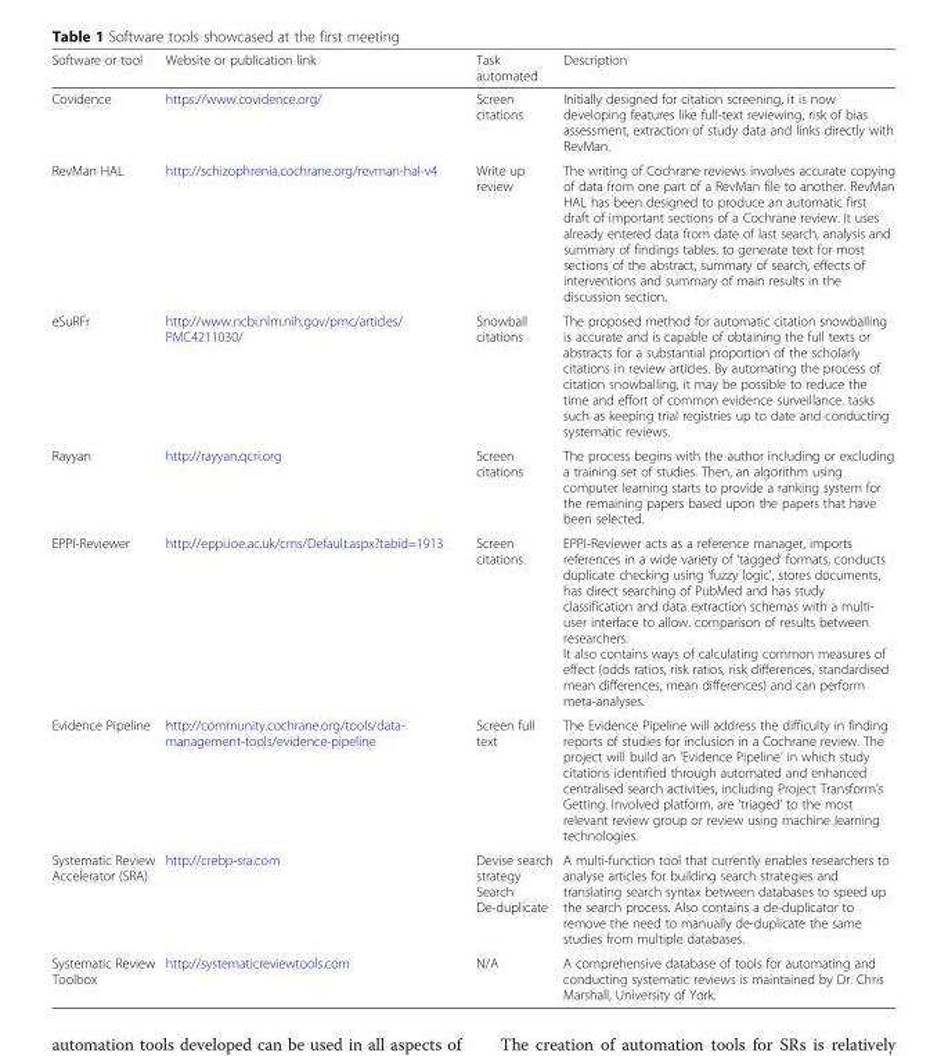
<table><thead><tr><td>Software or tool</td><td>Website or publication link</td><td>Task automated</td><td>Description</td></tr></thead><tbody><tr><td>Covidence</td><td>https://www.covidence.org/</td><td>Screen citations</td><td>Initially designed for citation screening, it is now developing features like full-text reviewing, risk of bias assessment, extraction of study data and links directly with RevMan.</td></tr><tr><td>RevMan HAL</td><td>http://schizophrenia.cochrane.org/revman-hal-v4</td><td>Write up review</td><td>The writing of Cochrane reviews involves accurate copying of data from one part of a RevMan file to another. RevMan HAL has been designed to produce an automatic first draft of important sections of a Cochrane review. It uses already entered data from date of last search, analysis and summary of findings tables. to generate text for most sections of the abstract, summary of search, effects of interventions and summary of main results in the discussion section.</td></tr><tr><td>eSuRFr</td><td>http://www.ncbi.nlm.nih.gov/pmc/articles/ PMC4211030/</td><td>Snowball citations</td><td>The proposed method for automatic citation snowballing is accurate and is capable of obtaining the full texts or abstracts for a substantial proportion of the scholarly citations in review articles. By automating the process of citation snowballing, it may be possible to reduce the time and effort of common evidence surveillance. tasks such as keeping trial registries up to date and conducting systematic reviews.</td></tr><tr><td>Rayyan</td><td>http://rayyan.qcri.org</td><td>Screen citations</td><td>The process begins with the author including or excluding a training set of studies. Then, an algorithm using computer learning starts to provide a ranking system for the remaining papers based upon the papers that have been selected.</td></tr><tr><td>EPPI-Reviewer</td><td>http://eppi.ioe.ac.uk/cms/Default.aspx?tabid=1913</td><td>Screen citations</td><td>EPPI-Reviewer acts as a reference manager, imports references in a wide variety of ‘tagged’ formats, conducts duplicate checking using ‘fuzzy logic’, stores documents, has direct searching of PubMed and has study classification and data extraction schemas with a multi- user interface to allow. comparison of results between researchers. It also contains ways of calculating common measures of effect (odds ratios, risk ratios, risk differences, standardised mean differences, mean differences) and can perform meta-analyses.</td></tr><tr><td>Evidence Pipeline</td><td>http://community.cochrane.org/tools/data- management-tools/evidence-pipeline</td><td>Screen full text</td><td>The Evidence Pipeline will address the difficulty in finding reports of studies for inclusion in a Cochrane review. The project will build an ‘Evidence Pipeline’ in which study citations identified through automated and enhanced centralised search activities, including Project Transform’s Getting. Involved platform, are ‘triaged’ to the most relevant review group or review using machine learning technologies.</td></tr><tr><td>Systematic Review Accelerator (SRA)</td><td>http://crebp-sra.com</td><td>Devise search strategy Search De-duplicate</td><td>A multi-function tool that currently enables researchers to analyse articles for building search strategies and translating search syntax between databases to speed up the search process. Also contains a de-duplicator to remove the need to manually de-duplicate the same studies from multiple databases.</td></tr><tr><td>Systematic Review Toolbox</td><td>http://systematicreviewtools.com</td><td>N/A</td><td>A comprehensive database of tools for automating and conducting systematic reviews is maintained by Dr. Chris Marshall, University of York.</td></tr></tbody></table>